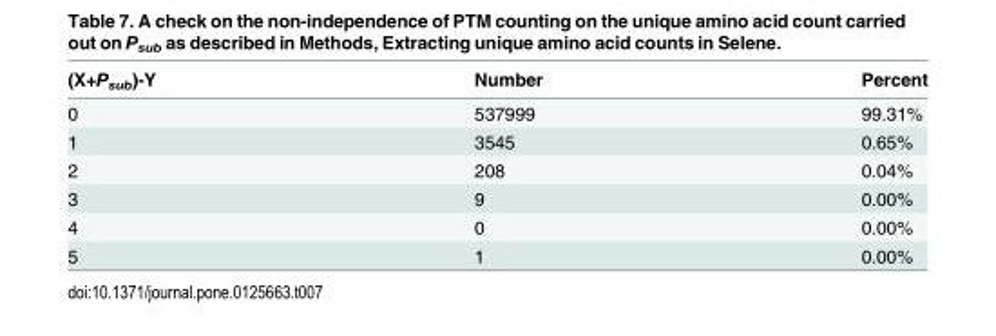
<table><thead><tr><td>(X+P<sub>sub</sub>)-Y</td><td>Number</td><td>Percent</td></tr></thead><tbody><tr><td>0</td><td>537999</td><td>99.31%</td></tr><tr><td>1</td><td>3545</td><td>0.65%</td></tr><tr><td>2</td><td>208</td><td>0.04%</td></tr><tr><td>3</td><td>9</td><td>0.00%</td></tr><tr><td>4</td><td>0</td><td>0.00%</td></tr><tr><td>5</td><td>1</td><td>0.00%</td></tr></tbody></table>